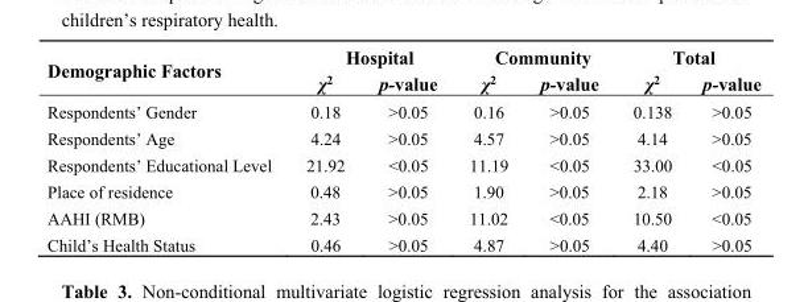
<table><thead><tr><td rowspan="2">Demographic Factors</td><td colspan="2">Hospital</td><td colspan="2">Community</td><td colspan="2">Total</td></tr><tr><td>χ<sup>2</sup></td><td>p-value</td><td>χ<sup>2</sup></td><td>p-value</td><td>χ<sup>2</sup></td><td>p-value</td></tr></thead><tbody><tr><td>Respondents’ Gender</td><td>0.18</td><td>&gt;0.05</td><td>0.16</td><td>&gt;0.05</td><td>0.138</td><td>&gt;0.05</td></tr><tr><td>Respondents’ Age</td><td>4.24</td><td>&gt;0.05</td><td>4.57</td><td>&gt;0.05</td><td>4.14</td><td>&gt;0.05</td></tr><tr><td>Respondents’ Educational Level</td><td>21.92</td><td>&lt;0.05</td><td>11.19</td><td>&lt;0.05</td><td>33.00</td><td>&lt;0.05</td></tr><tr><td>Place of residence</td><td>0.48</td><td>&gt;0.05</td><td>1.90</td><td>&gt;0.05</td><td>2.18</td><td>&gt;0.05</td></tr><tr><td>AAHI (RMB)</td><td>2.43</td><td>&gt;0.05</td><td>11.02</td><td>&lt;0.05</td><td>10.50</td><td>&lt;0.05</td></tr><tr><td>Child’s Health Status</td><td>0.46</td><td>&gt;0.05</td><td>4.87</td><td>&gt;0.05</td><td>4.40</td><td>&gt;0.05</td></tr></tbody></table>